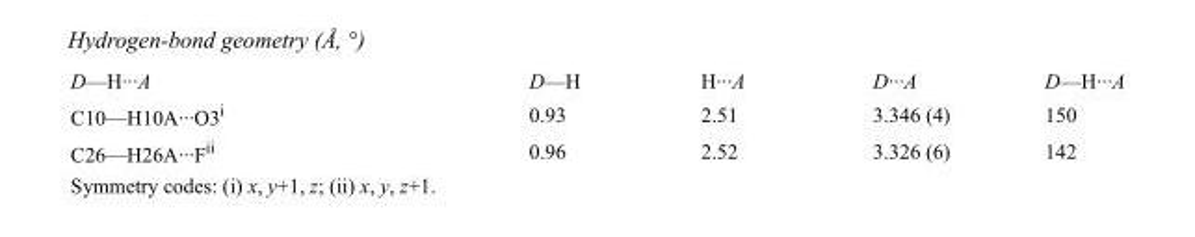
<table><tbody><tr><td>D—H···A</td><td>D—H</td><td>H···A</td><td>D···A</td><td>D—H···A</td></tr><tr><td>C10—H10A···O3<sup>i</sup></td><td>0.93</td><td>2.51</td><td>3.346 (4)</td><td>150</td></tr><tr><td>C26—H26A···F<sup>ii</sup></td><td>0.96</td><td>2.52</td><td>3.326 (6)</td><td>142</td></tr></tbody></table>